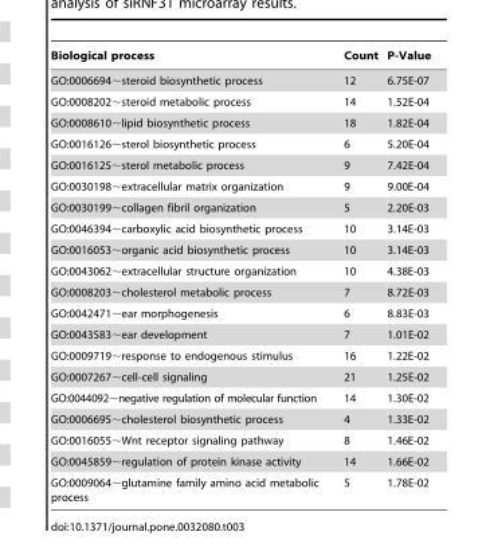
<table><thead><tr><td>Biological process</td><td>Count</td><td>P-Value</td></tr></thead><tbody><tr><td>GO:0006694∼steroid biosynthetic process</td><td>12</td><td>6.75E-07</td></tr><tr><td>GO:0008202∼steroid metabolic process</td><td>14</td><td>1.52E-04</td></tr><tr><td>GO:0008610∼lipid biosynthetic process</td><td>18</td><td>1.82E-04</td></tr><tr><td>GO:0016126∼sterol biosynthetic process</td><td>6</td><td>5.20E-04</td></tr><tr><td>GO:0016125∼sterol metabolic process</td><td>9</td><td>7.42E-04</td></tr><tr><td>GO:0030198∼extracellular matrix organization</td><td>9</td><td>9.00E-04</td></tr><tr><td>GO:0030199∼collagen fibril organization</td><td>5</td><td>2.20E-03</td></tr><tr><td>GO:0046394∼carboxylic acid biosynthetic process</td><td>10</td><td>3.14E-03</td></tr><tr><td>GO:0016053∼organic acid biosynthetic process</td><td>10</td><td>3.14E-03</td></tr><tr><td>GO:0043062∼extracellular structure organization</td><td>10</td><td>4.38E-03</td></tr><tr><td>GO:0008203∼cholesterol metabolic process</td><td>7</td><td>8.72E-03</td></tr><tr><td>GO:0042471∼ear morphogenesis</td><td>6</td><td>8.83E-03</td></tr><tr><td>GO:0043583∼ear development</td><td>7</td><td>1.01E-02</td></tr><tr><td>GO:0009719∼response to endogenous stimulus</td><td>16</td><td>1.22E-02</td></tr><tr><td>GO:0007267∼cell-cell signaling</td><td>21</td><td>1.25E-02</td></tr><tr><td>GO:0044092∼negative regulation of molecular function</td><td>14</td><td>1.30E-02</td></tr><tr><td>GO:0006695∼cholesterol biosynthetic process</td><td>4</td><td>1.33E-02</td></tr><tr><td>GO:0016055∼Wnt receptor signaling pathway</td><td>8</td><td>1.46E-02</td></tr><tr><td>GO:0045859∼regulation of protein kinase activity</td><td>14</td><td>1.66E-02</td></tr><tr><td>GO:0009064∼glutamine family amino acid metabolic process</td><td>5</td><td>1.78E-02</td></tr></tbody></table>